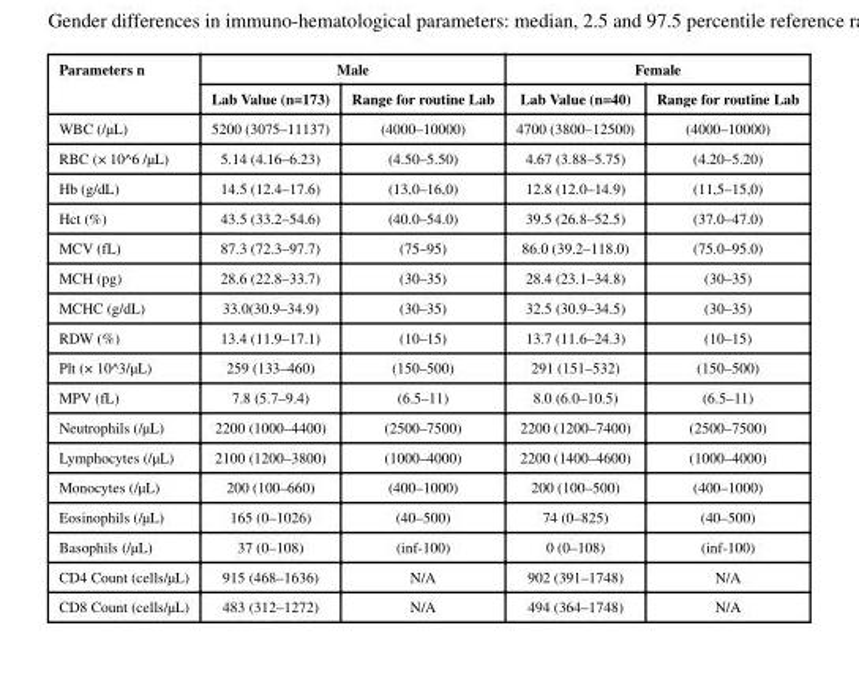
<table><thead><tr><td rowspan="2">Parameters n</td><td colspan="2">Male</td><td colspan="2">Female</td></tr><tr><td>Lab Value (n=173)</td><td>Range for routine Lab</td><td>Lab Value (n=40)</td><td>Range for routine Lab</td></tr></thead><tbody><tr><td>WBC (/μL)</td><td>5200 (3075–11137)</td><td>(4000–10000)</td><td>4700 (3800–12500)</td><td>(4000–10000)</td></tr><tr><td>RBC (× 10^6 /μL)</td><td>5.14 (4.16–6.23)</td><td>(4.50–5.50)</td><td>4.67 (3.88–5.75)</td><td>(4.20–5.20)</td></tr><tr><td>Hb (g/dL)</td><td>14.5 (12.4–17.6)</td><td>(13,0–16,0)</td><td>12.8 (12.0–14.9)</td><td>(11,5–15,0)</td></tr><tr><td>Hct (%)</td><td>43.5 (33.2–54.6)</td><td>(40.0–54.0)</td><td>39.5 (26.8–52.5)</td><td>(37.0–47.0)</td></tr><tr><td>MCV (fL)</td><td>87.3 (72.3–97.7)</td><td>(75–95)</td><td>86.0 (39.2–118.0)</td><td>(75.0–95.0)</td></tr><tr><td>MCH (pg)</td><td>28.6 (22.8–33.7)</td><td>(30–35)</td><td>28.4 (23.1–34.8)</td><td>(30–35)</td></tr><tr><td>MCHC (g/dL)</td><td>33.0(30.9–34.9)</td><td>(30–35)</td><td>32.5 (30.9–34.5)</td><td>(30–35)</td></tr><tr><td>RDW (%)</td><td>13.4 (11.9–17.1)</td><td>(10–15)</td><td>13.7 (11.6–24.3)</td><td>(10–15)</td></tr><tr><td>Plt (× 10^3/μL)</td><td>259 (133–460)</td><td>(150–500)</td><td>291 (151–532)</td><td>(150–500)</td></tr><tr><td>MPV (fL)</td><td>7.8 (5.7–9.4)</td><td>(6.5–11)</td><td>8.0 (6.0–10.5)</td><td>(6.5–11)</td></tr><tr><td>Neutrophils (/μL)</td><td>2200 (1000–4400)</td><td>(2500–7500)</td><td>2200 (1200–7400)</td><td>(2500–7500)</td></tr><tr><td>Lymphocytes (/μL)</td><td>2100 (1200–3800)</td><td>(1000–4000)</td><td>2200 (1400–4600)</td><td>(1000–4000)</td></tr><tr><td>Monocytes (/μL)</td><td>200 (100–660)</td><td>(400–1000)</td><td>200 (100–500)</td><td>(400–1000)</td></tr><tr><td>Eosinophils (/μL)</td><td>165 (0–1026)</td><td>(40–500)</td><td>74 (0–825)</td><td>(40–500)</td></tr><tr><td>Basophils (/μL)</td><td>37 (0–108)</td><td>(inf-100)</td><td>0 (0–108)</td><td>(inf-100)</td></tr><tr><td>CD4 Count (cells/μL)</td><td>915 (468–1636)</td><td>N/A</td><td>902 (391–1748)</td><td>N/A</td></tr><tr><td>CD8 Count (cells/μL)</td><td>483 (312–1272)</td><td>N/A</td><td>494 (364–1748)</td><td>N/A</td></tr></tbody></table>